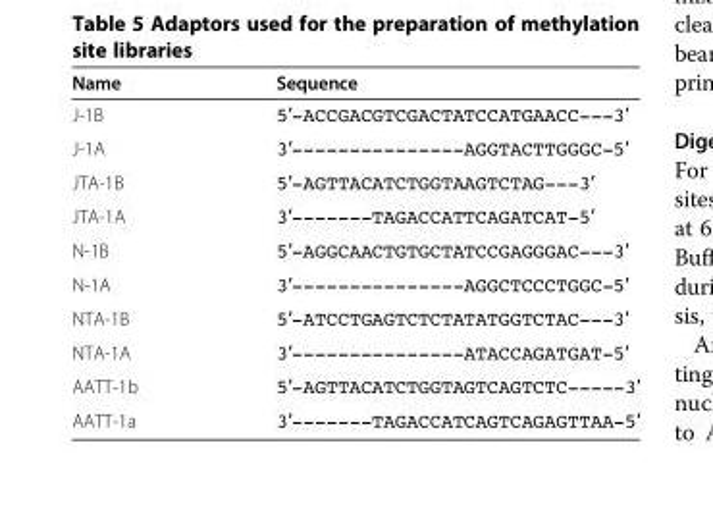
<table><thead><tr><td>Name</td><td>Sequence</td></tr></thead><tbody><tr><td>J-1B</td><td>5′-ACCGACGTCGACTATCCATGAACC---3′</td></tr><tr><td>J-1A</td><td>3′---------------AGGTACTTGGGC-5′</td></tr><tr><td>JTA-1B</td><td>5′-AGTTACATCTGGTAAGTCTAG---3′</td></tr><tr><td>JTA-1A</td><td>3′-------TAGACCATTCAGATCAT-5′</td></tr><tr><td>N-1B</td><td>5′-AGGCAACTGTGCTATCCGAGGGAC---3′</td></tr><tr><td>N-1A</td><td>3′---------------AGGCTCCCTGGC-5′</td></tr><tr><td>NTA-1B</td><td>5′-ATCCTGAGTCTCTATATGGTCTAC---3′</td></tr><tr><td>NTA-1A</td><td>3′---------------ATACCAGATGAT-5′</td></tr><tr><td>AATT-1b</td><td>5′-AGTTACATCTGGTAGTCAGTCTC-----3′</td></tr><tr><td>AATT-1a</td><td>3′-------TAGACCATCAGTCAGAGTTAA-5′</td></tr></tbody></table>